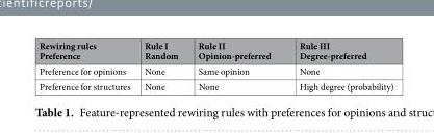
<table><thead><tr><td>Rewiring rules Preference</td><td>Rule I Random</td><td>Rule II Opinion-preferred</td><td>Rule III Degree-preferred</td></tr></thead><tbody><tr><td>Preference for opinions</td><td>None</td><td>Same opinion</td><td>None</td></tr><tr><td>Preference for structures</td><td>None</td><td>None</td><td>High degree (probability)</td></tr></tbody></table>